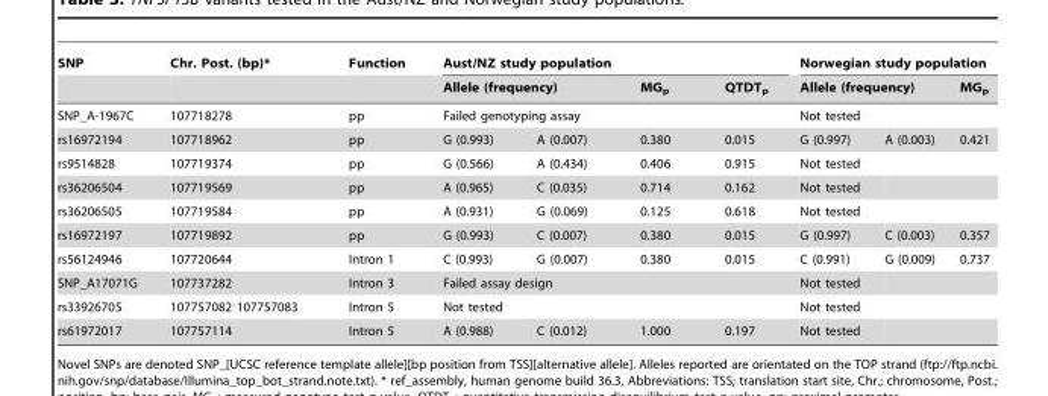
<table><thead><tr><td rowspan="4">SNP SNP_A-1967C rs16972194</td><td rowspan="4">Chr. Post. (bp)* 107718278 107718962</td><td rowspan="4">Function pp pp</td><td colspan="4">Aust/NZ study population</td><td colspan="3">Norwegian study population</td></tr><tr><td colspan="2">Allele (frequency)</td><td>MG<sub>p</sub></td><td>QTDT<sub>p</sub></td><td colspan="2">Allele (frequency)</td><td rowspan="3">MG<sub>p</sub> 0.421</td></tr><tr><td colspan="4">Failed genotyping assay</td><td rowspan="2">Not tested G (0.997)</td><td rowspan="2">A (0.003)</td></tr><tr><td>G (0.993)</td><td>A (0.007)</td><td>0.380</td><td>0.015</td></tr></thead><tbody><tr><td>rs9514828</td><td>107719374</td><td>pp</td><td>G (0.566)</td><td>A (0.434)</td><td>0.406</td><td>0.915</td><td>Not tested</td><td></td><td></td></tr><tr><td>rs36206504</td><td>107719569</td><td>pp</td><td>A (0.965)</td><td>C (0.035)</td><td>0.714</td><td>0.162</td><td>Not tested</td><td></td><td></td></tr><tr><td>rs36206505</td><td>107719584</td><td>pp</td><td>A (0.931)</td><td>G (0.069)</td><td>0.125</td><td>0.618</td><td>Not tested</td><td></td><td></td></tr><tr><td>rs16972197</td><td>107719892</td><td>pp</td><td>G (0.993)</td><td>C (0.007)</td><td>0.380</td><td>0.015</td><td>G (0.997)</td><td>C (0.003)</td><td>0.357</td></tr><tr><td>rs56124946</td><td>107720644</td><td>Intron 1</td><td>C (0.993)</td><td>G (0.007)</td><td>0.380</td><td>0.015</td><td>C (0.991)</td><td>G (0.009)</td><td>0.737</td></tr><tr><td>SNP_A17071G</td><td>107737282</td><td>Intron 3</td><td colspan="4">Failed assay design</td><td>Not tested</td><td></td><td></td></tr><tr><td>rs33926705</td><td>107757082‘107757083</td><td>Intron 5</td><td>Not tested</td><td></td><td></td><td></td><td>Not tested</td><td></td><td></td></tr><tr><td>rs61972017</td><td>107757114</td><td>Intron 5</td><td>A (0.988)</td><td>C (0.012)</td><td>1.000</td><td>0.197</td><td>Not tested</td><td></td><td></td></tr></tbody></table>